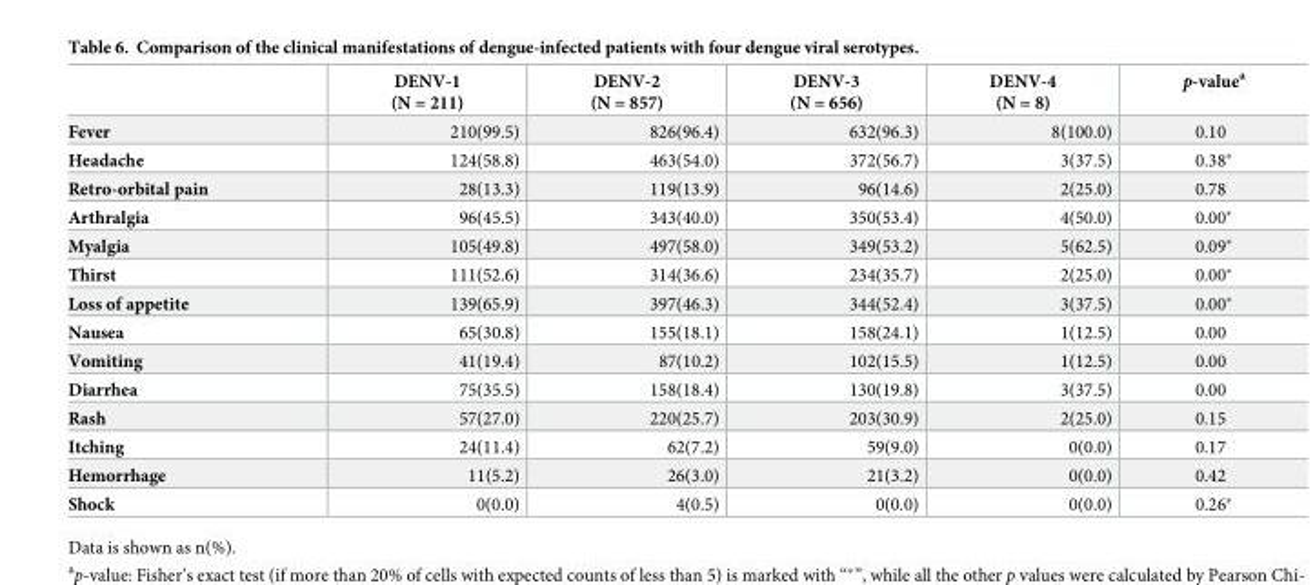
<table><thead><tr><td></td><td>DENV-1 (N = 211)</td><td>DENV-2 (N = 857)</td><td>DENV-3 (N = 656)</td><td>DENV-4 (N = 8)</td><td>p-value<sup>a</sup></td></tr></thead><tbody><tr><td>Fever</td><td>210(99.5)</td><td>826(96.4)</td><td>632(96.3)</td><td>8(100.0)</td><td>0.10</td></tr><tr><td>Headache</td><td>124(58.8)</td><td>463(54.0)</td><td>372(56.7)</td><td>3(37.5)</td><td>0.38*</td></tr><tr><td>Retro-orbital pain</td><td>28(13.3)</td><td>119(13.9)</td><td>96(14.6)</td><td>2(25.0)</td><td>0.78</td></tr><tr><td>Arthralgia</td><td>96(45.5)</td><td>343(40.0)</td><td>350(53.4)</td><td>4(50.0)</td><td>0.00*</td></tr><tr><td>Myalgia</td><td>105(49.8)</td><td>497(58.0)</td><td>349(53.2)</td><td>5(62.5)</td><td>0.09*</td></tr><tr><td>Thirst</td><td>111(52.6)</td><td>314(36.6)</td><td>234(35.7)</td><td>2(25.0)</td><td>0.00*</td></tr><tr><td>Loss of appetite</td><td>139(65.9)</td><td>397(46.3)</td><td>344(52.4)</td><td>3(37.5)</td><td>0.00*</td></tr><tr><td>Nausea</td><td>65(30.8)</td><td>155(18.1)</td><td>158(24.1)</td><td>1(12.5)</td><td>0.00</td></tr><tr><td>Vomiting</td><td>41(19.4)</td><td>87(10.2)</td><td>102(15.5)</td><td>1(12.5)</td><td>0.00</td></tr><tr><td>Diarrhea</td><td>75(35.5)</td><td>158(18.4)</td><td>130(19.8)</td><td>3(37.5)</td><td>0.00</td></tr><tr><td>Rash</td><td>57(27.0)</td><td>220(25.7)</td><td>203(30.9)</td><td>2(25.0)</td><td>0.15</td></tr><tr><td>Itching</td><td>24(11.4)</td><td>62(7.2)</td><td>59(9.0)</td><td>0(0.0)</td><td>0.17</td></tr><tr><td>Hemorrhage</td><td>11(5.2)</td><td>26(3.0)</td><td>21(3.2)</td><td>0(0.0)</td><td>0.42</td></tr><tr><td>Shock</td><td>0(0.0)</td><td>4(0.5)</td><td>0(0.0)</td><td>0(0.0)</td><td>0.26*</td></tr></tbody></table>